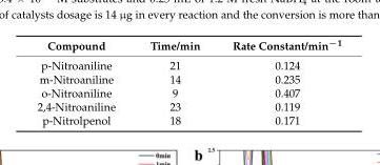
<table><thead><tr><td>Compound</td><td>Time/min</td><td>Rate Constant/min<sup>−1</sup></td></tr></thead><tbody><tr><td>p-Nitroaniline</td><td>21</td><td>0.124</td></tr><tr><td>m-Nitroaniline</td><td>14</td><td>0.235</td></tr><tr><td>o-Nitroaniline</td><td>9</td><td>0.407</td></tr><tr><td>2,4-Nitroaniline</td><td>23</td><td>0.119</td></tr><tr><td>p-Nitrolpenol</td><td>18</td><td>0.171</td></tr></tbody></table>